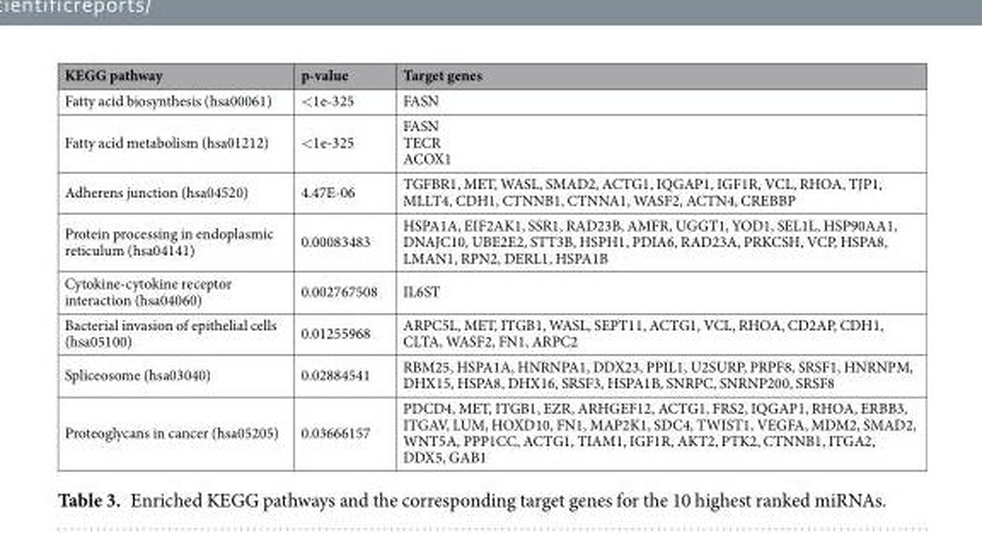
<table><thead><tr><td>KEGG pathway</td><td>p-value</td><td>Target genes</td></tr></thead><tbody><tr><td>Fatty acid biosynthesis (hsa00061)</td><td>&lt;1e-325</td><td>FASN</td></tr><tr><td>Fatty acid metabolism (hsa01212)</td><td>&lt;1e-325</td><td>FASN TECR ACOX1</td></tr><tr><td>Adherens junction (hsa04520)</td><td>4.47E-06</td><td>TGFBR1, MET, WASL, SMAD2, ACTG1, IQGAP1, IGF1R, VCL, RHOA, TJP1, MLLT4, CDH1, CTNNB1, CTNNA1, WASF2, ACTN4, CREBBP</td></tr><tr><td>Protein processing in endoplasmic reticulum (hsa04141)</td><td>0.00083483</td><td>HSPA1A, EIF2AK1, SSR1, RAD23B, AMFR, UGGT1, YOD1, SEL1L, HSP90AA1, DNAJC10, UBE2E2, STT3B, HSPH1, PDIA6, RAD23A, PRKCSH, VCP, HSPA8, LMAN1, RPN2, DERL1, HSPA1B</td></tr><tr><td>Cytokine-cytokine receptor interaction (hsa04060)</td><td>0.002767508</td><td>IL6ST</td></tr><tr><td>Bacterial invasion of epithelial cells (hsa05100)</td><td>0.01255968</td><td>ARPC5L, MET, ITGB1, WASL, SEPT11, ACTG1, VCL, RHOA, CD2AP, CDH1, CLTA, WASF2, FN1, ARPC2</td></tr><tr><td>Spliceosome (hsa03040)</td><td>0.02884541</td><td>RBM25, HSPA1A, HNRNPA1, DDX23, PPIL1, U2SURP, PRPF8, SRSF1, HNRNPM, DHX15, HSPA8, DHX16, SRSF3, HSPA1B, SNRPC, SNRNP200, SRSF8</td></tr><tr><td>Proteoglycans in cancer (hsa05205)</td><td>0.03666157</td><td>PDCD4, MET, ITGB1, EZR, ARHGEF12, ACTG1, FRS2, IQGAP1, RHOA, ERBB3, ITGAV, LUM, HOXD10, FN1, MAP2K1, SDC4, TWIST1, VEGFA, MDM2, SMAD2, WNT5A, PPP1CC, ACTG1, TIAM1, IGF1R, AKT2, PTK2, CTNNB1, ITGA2, DDX5, GAB1</td></tr></tbody></table>